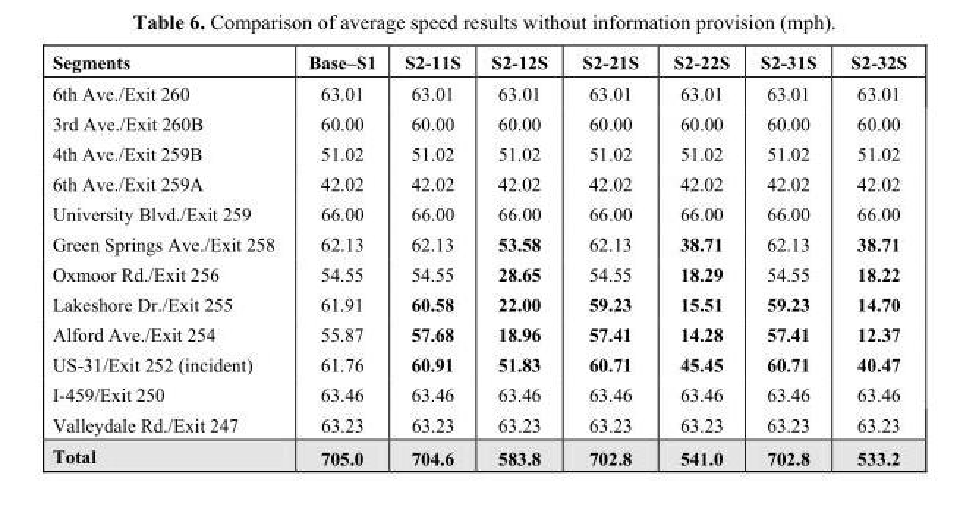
<table><thead><tr><td>Segments</td><td>Base–S1</td><td>S2-11S</td><td>S2-12S</td><td>S2-21S</td><td>S2-22S</td><td>S2-31S</td><td>S2-32S</td></tr></thead><tbody><tr><td>6th Ave./Exit 260</td><td>63.01</td><td>63.01</td><td>63.01</td><td>63.01</td><td>63.01</td><td>63.01</td><td>63.01</td></tr><tr><td>3rd Ave./Exit 260B</td><td>60.00</td><td>60.00</td><td>60.00</td><td>60.00</td><td>60.00</td><td>60.00</td><td>60.00</td></tr><tr><td>4th Ave./Exit 259B</td><td>51.02</td><td>51.02</td><td>51.02</td><td>51.02</td><td>51.02</td><td>51.02</td><td>51.02</td></tr><tr><td>6th Ave./Exit 259A</td><td>42.02</td><td>42.02</td><td>42.02</td><td>42.02</td><td>42.02</td><td>42.02</td><td>42.02</td></tr><tr><td>University Blvd./Exit 259</td><td>66.00</td><td>66.00</td><td>66.00</td><td>66.00</td><td>66.00</td><td>66.00</td><td>66.00</td></tr><tr><td>Green Springs Ave./Exit 258</td><td>62.13</td><td>62.13</td><td>53.58</td><td>62.13</td><td>38.71</td><td>62.13</td><td>38.71</td></tr><tr><td>Oxmoor Rd./Exit 256</td><td>54.55</td><td>54.55</td><td>28.65</td><td>54.55</td><td>18.29</td><td>54.55</td><td>18.22</td></tr><tr><td>Lakeshore Dr./Exit 255</td><td>61.91</td><td>60.58</td><td>22.00</td><td>59.23</td><td>15.51</td><td>59.23</td><td>14.70</td></tr><tr><td>Alford Ave./Exit 254</td><td>55.87</td><td>57.68</td><td>18.96</td><td>57.41</td><td>14.28</td><td>57.41</td><td>12.37</td></tr><tr><td>US-31/Exit 252 (incident)</td><td>61.76</td><td>60.91</td><td>51.83</td><td>60.71</td><td>45.45</td><td>60.71</td><td>40.47</td></tr><tr><td>I-459/Exit 250</td><td>63.46</td><td>63.46</td><td>63.46</td><td>63.46</td><td>63.46</td><td>63.46</td><td>63.46</td></tr><tr><td>Valleydale Rd./Exit 247</td><td>63.23</td><td>63.23</td><td>63.23</td><td>63.23</td><td>63.23</td><td>63.23</td><td>63.23</td></tr><tr><td>Total</td><td>705.0</td><td>704.6</td><td>583.8</td><td>702.8</td><td>541.0</td><td>702.8</td><td>533.2</td></tr></tbody></table>